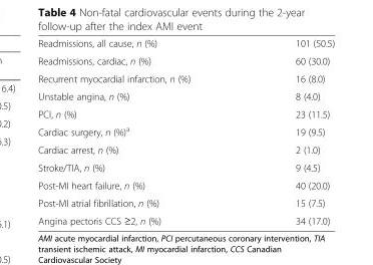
<table><tbody><tr><td>Readmissions, all cause, n (%)</td><td>101 (50.5)</td></tr><tr><td>Readmissions, cardiac, n (%)</td><td>60 (30.0)</td></tr><tr><td>Recurrent myocardial infarction, n (%)</td><td>16 (8.0)</td></tr><tr><td>Unstable angina, n (%)</td><td>8 (4.0)</td></tr><tr><td>PCI, n (%)</td><td>23 (11.5)</td></tr><tr><td>Cardiac surgery, n (%)<sup>a</sup></td><td>19 (9.5)</td></tr><tr><td>Cardiac arrest, n (%)</td><td>2 (1.0)</td></tr><tr><td>Stroke/TIA, n (%)</td><td>9 (4.5)</td></tr><tr><td>Post-MI heart failure, n (%)</td><td>40 (20.0)</td></tr><tr><td>Post-MI atrial fibrillation, n (%)</td><td>15 (7.5)</td></tr><tr><td>Angina pectoris CCS ≥2, n (%)</td><td>34 (17.0)</td></tr></tbody></table>